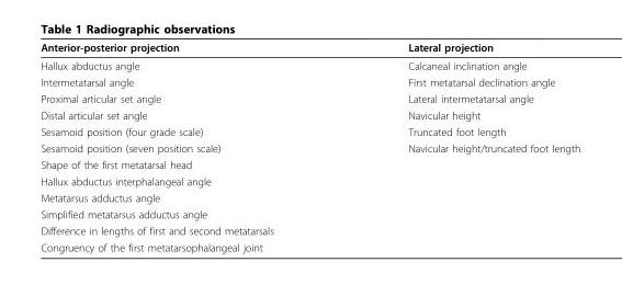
<table><thead><tr><td>Anterior-posterior projection</td><td>Lateral projection</td></tr></thead><tbody><tr><td>Hallux abductus angle</td><td>Calcaneal inclination angle</td></tr><tr><td>Intermetatarsal angle</td><td>First metatarsal declination angle</td></tr><tr><td>Proximal articular set angle</td><td>Lateral intermetatarsal angle</td></tr><tr><td>Distal articular set angle</td><td>Navicular height</td></tr><tr><td>Sesamoid position (four grade scale)</td><td>Truncated foot length</td></tr><tr><td>Sesamoid position (seven position scale)</td><td>Navicular height/truncated foot length</td></tr><tr><td colspan="2">Shape of the first metatarsal head</td></tr><tr><td colspan="2">Hallux abductus interphalangeal angle</td></tr><tr><td colspan="2">Metatarsus adductus angle</td></tr><tr><td colspan="2">Simplified metatarsus adductus angle</td></tr><tr><td colspan="2">Difference in lengths of first and second metatarsals</td></tr><tr><td>Congruency of the first metatarsophalangeal joint</td><td></td></tr></tbody></table>